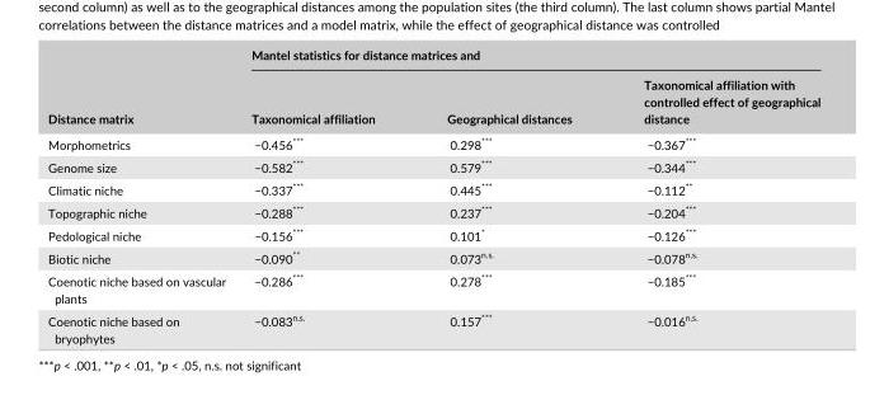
<table><thead><tr><td rowspan="2">Distance matrix</td><td colspan="3">Mantel statistics for distance matrices and</td></tr><tr><td>Taxonomical affiliation</td><td>Geographical distances</td><td>Taxonomical affiliation with controlled effect of geographical distance</td></tr></thead><tbody><tr><td>Morphometrics</td><td>−0.456***</td><td>0.298***</td><td>−0.367***</td></tr><tr><td>Genome size</td><td>−0.582***</td><td>0.579***</td><td>−0.344***</td></tr><tr><td>Climatic niche</td><td>−0.337***</td><td>0.445***</td><td>−0.112**</td></tr><tr><td>Topographic niche</td><td>−0.288***</td><td>0.237***</td><td>−0.204***</td></tr><tr><td>Pedological niche</td><td>−0.156***</td><td>0.101*</td><td>−0.126***</td></tr><tr><td>Biotic niche</td><td>−0.090**</td><td>0.073<sup>n.s.</sup></td><td>−0.078<sup>n.s.</sup></td></tr><tr><td>Coenotic niche based on vascular plants</td><td>−0.286***</td><td>0.278***</td><td>−0.185***</td></tr><tr><td>Coenotic niche based on bryophytes</td><td>−0.083<sup>n.s.</sup></td><td>0.157***</td><td>−0.016<sup>n.s.</sup></td></tr></tbody></table>